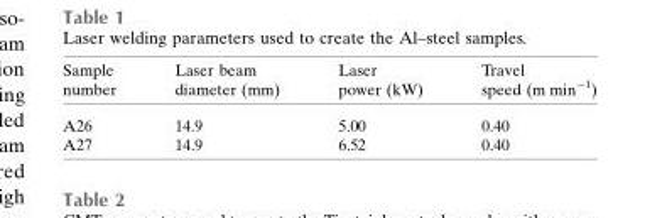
<table><thead><tr><td>Sample number</td><td>Laser beam diameter (mm)</td><td>Laser power (kW)</td><td>Travel speed (m min<sup>−1</sup>)</td></tr></thead><tbody><tr><td>A26</td><td>14.9</td><td>5.00</td><td>0.40</td></tr><tr><td>A27</td><td>14.9</td><td>6.52</td><td>0.40</td></tr></tbody></table>